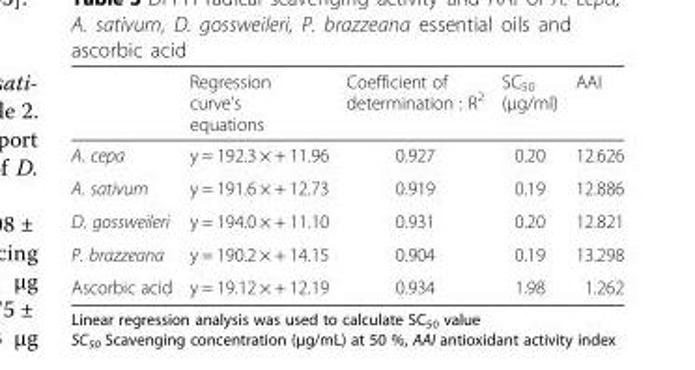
<table><thead><tr><td></td><td>Regression curve’s equations</td><td>Coefficient of determination : R<sup>2</sup></td><td>SC<sub>50</sub> (μg/ml)</td><td>AAI</td></tr></thead><tbody><tr><td>A. cepa</td><td>y = 192.3 × + 11.96</td><td>0.927</td><td>0.20</td><td>12.626</td></tr><tr><td>A. sativum</td><td>y = 191.6 × + 12.73</td><td>0.919</td><td>0.19</td><td>12.886</td></tr><tr><td>D. gossweileri</td><td>y = 194.0 × + 11.10</td><td>0.931</td><td>0.20</td><td>12.821</td></tr><tr><td>P. brazzeana</td><td>y = 190.2 × + 14.15</td><td>0.904</td><td>0.19</td><td>13.298</td></tr><tr><td>Ascorbic acid</td><td>y = 19.12 × + 12.19</td><td>0.934</td><td>1.98</td><td>1.262</td></tr></tbody></table>